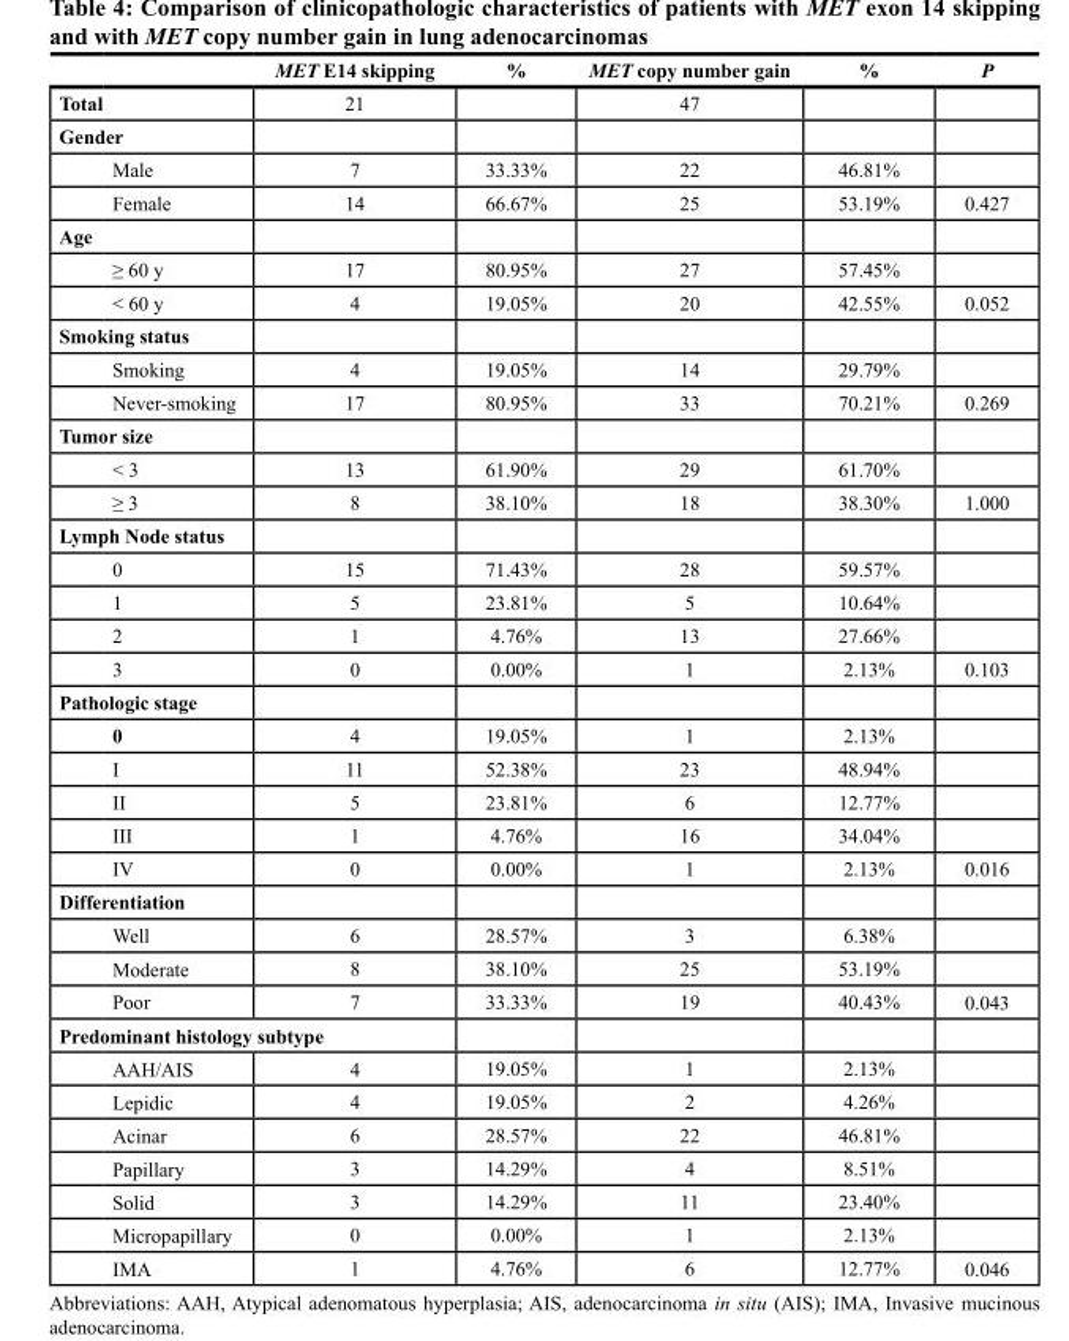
<table><thead><tr><td></td><td>MET E14 skipping</td><td>%</td><td>MET copy number gain</td><td>%</td><td>P</td></tr></thead><tbody><tr><td>Total</td><td>21</td><td></td><td>47</td><td></td><td></td></tr><tr><td colspan="6">Gender</td></tr><tr><td>Male</td><td>7</td><td>33.33%</td><td>22</td><td>46.81%</td><td></td></tr><tr><td>Female</td><td>14</td><td>66.67%</td><td>25</td><td>53.19%</td><td>0.427</td></tr><tr><td colspan="6">Age</td></tr><tr><td>≥ 60 y</td><td>17</td><td>80.95%</td><td>27</td><td>57.45%</td><td></td></tr><tr><td>&lt; 60 y</td><td>4</td><td>19.05%</td><td>20</td><td>42.55%</td><td>0.052</td></tr><tr><td colspan="6">Smoking status</td></tr><tr><td>Smoking</td><td>4</td><td>19.05%</td><td>14</td><td>29.79%</td><td></td></tr><tr><td>Never-smoking</td><td>17</td><td>80.95%</td><td>33</td><td>70.21%</td><td>0.269</td></tr><tr><td colspan="6">Tumor size</td></tr><tr><td>&lt; 3</td><td>13</td><td>61.90%</td><td>29</td><td>61.70%</td><td></td></tr><tr><td>≥ 3</td><td>8</td><td>38.10%</td><td>18</td><td>38.30%</td><td>1.000</td></tr><tr><td colspan="6">Lymph Node status</td></tr><tr><td>0</td><td>15</td><td>71.43%</td><td>28</td><td>59.57%</td><td></td></tr><tr><td>1</td><td>5</td><td>23.81%</td><td>5</td><td>10.64%</td><td></td></tr><tr><td>2</td><td>1</td><td>4.76%</td><td>13</td><td>27.66%</td><td></td></tr><tr><td>3</td><td>0</td><td>0.00%</td><td>1</td><td>2.13%</td><td>0.103</td></tr><tr><td colspan="6">Pathologic stage</td></tr><tr><td>0</td><td>4</td><td>19.05%</td><td>1</td><td>2.13%</td><td></td></tr><tr><td>I</td><td>11</td><td>52.38%</td><td>23</td><td>48.94%</td><td></td></tr><tr><td>II</td><td>5</td><td>23.81%</td><td>6</td><td>12.77%</td><td></td></tr><tr><td>III</td><td>1</td><td>4.76%</td><td>16</td><td>34.04%</td><td></td></tr><tr><td>IV</td><td>0</td><td>0.00%</td><td>1</td><td>2.13%</td><td>0.016</td></tr><tr><td colspan="6">Differentiation</td></tr><tr><td>Well</td><td>6</td><td>28.57%</td><td>3</td><td>6.38%</td><td></td></tr><tr><td>Moderate</td><td>8</td><td>38.10%</td><td>25</td><td>53.19%</td><td></td></tr><tr><td>Poor</td><td>7</td><td>33.33%</td><td>19</td><td>40.43%</td><td>0.043</td></tr><tr><td colspan="6">Predominant histology subtype</td></tr><tr><td>AAH/AIS</td><td>4</td><td>19.05%</td><td>1</td><td>2.13%</td><td></td></tr><tr><td>Lepidic</td><td>4</td><td>19.05%</td><td>2</td><td>4.26%</td><td></td></tr><tr><td>Acinar</td><td>6</td><td>28.57%</td><td>22</td><td>46.81%</td><td></td></tr><tr><td>Papillary</td><td>3</td><td>14.29%</td><td>4</td><td>8.51%</td><td></td></tr><tr><td>Solid</td><td>3</td><td>14.29%</td><td>11</td><td>23.40%</td><td></td></tr><tr><td>Micropapillary</td><td>0</td><td>0.00%</td><td>1</td><td>2.13%</td><td></td></tr><tr><td>IMA</td><td>1</td><td>4.76%</td><td>6</td><td>12.77%</td><td>0.046</td></tr></tbody></table>